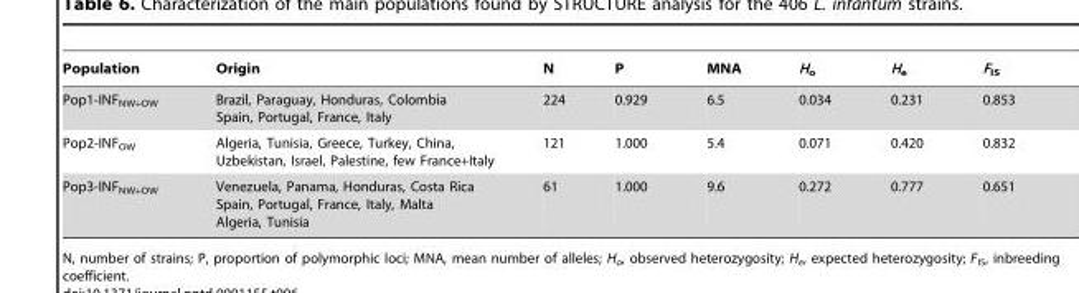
<table><thead><tr><td>Population</td><td>Origin</td><td>N</td><td>P</td><td>MNA</td><td>H<sub>o</sub></td><td>H<sub>e</sub></td><td>F<sub>IS</sub></td></tr></thead><tbody><tr><td>Pop1-INF<sub>NW+OW</sub></td><td>Brazil, Paraguay, Honduras, Colombia Spain, Portugal, France, Italy</td><td>224</td><td>0.929</td><td>6.5</td><td>0.034</td><td>0.231</td><td>0.853</td></tr><tr><td>Pop2-INF<sub>OW</sub></td><td>Algeria, Tunisia, Greece, Turkey, China, Uzbekistan, Israel, Palestine, few France+Italy</td><td>121</td><td>1.000</td><td>5.4</td><td>0.071</td><td>0.420</td><td>0.832</td></tr><tr><td>Pop3-INF<sub>NW+OW</sub></td><td>Venezuela, Panama, Honduras, Costa Rica Spain, Portugal, France, Italy, Malta Algeria, Tunisia</td><td>61</td><td>1.000</td><td>9.6</td><td>0.272</td><td>0.777</td><td>0.651</td></tr></tbody></table>